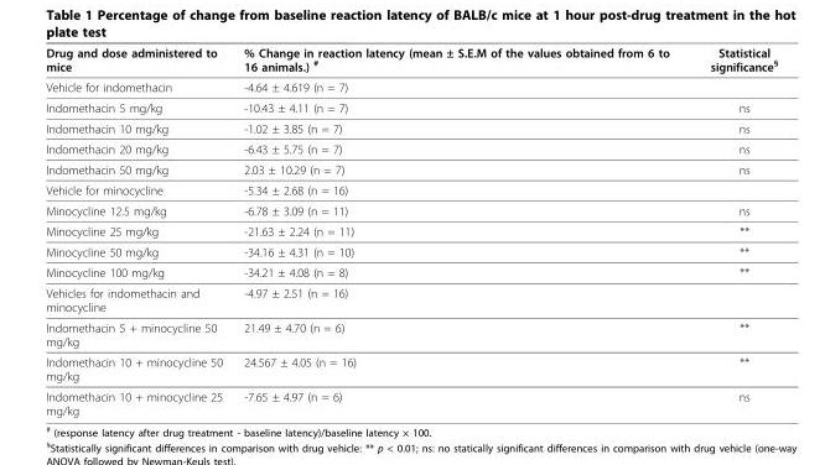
<table><thead><tr><td>Drug and dose administered to mice</td><td>% Change in reaction latency (mean ± S.E.M of the values obtained from 6 to 16 animals.) <sup>#</sup></td><td>Statistical significance<sup>§</sup></td></tr></thead><tbody><tr><td>Vehicle for indomethacin</td><td>-4.64 ± 4.619 (n = 7)</td><td></td></tr><tr><td>Indomethacin 5 mg/kg</td><td>-10.43 ± 4.11 (n = 7)</td><td>ns</td></tr><tr><td>Indomethacin 10 mg/kg</td><td>-1.02 ± 3.85 (n = 7)</td><td>ns</td></tr><tr><td>Indomethacin 20 mg/kg</td><td>-6.43 ± 5.75 (n = 7)</td><td>ns</td></tr><tr><td>Indomethacin 50 mg/kg</td><td>2.03 ± 10.29 (n = 7)</td><td>ns</td></tr><tr><td>Vehicle for minocycline</td><td>-5.34 ± 2.68 (n = 16)</td><td></td></tr><tr><td>Minocycline 12.5 mg/kg</td><td>-6.78 ± 3.09 (n = 11)</td><td>ns</td></tr><tr><td>Minocycline 25 mg/kg</td><td>-21.63 ± 2.24 (n = 11)</td><td>**</td></tr><tr><td>Minocycline 50 mg/kg</td><td>-34.16 ± 4.31 (n = 10)</td><td>**</td></tr><tr><td>Minocycline 100 mg/kg</td><td>-34.21 ± 4.08 (n = 8)</td><td>**</td></tr><tr><td>Vehicles for indomethacin and minocycline</td><td>-4.97 ± 2.51 (n = 16)</td><td></td></tr><tr><td>Indomethacin 5 + minocycline 50 mg/kg</td><td>21.49 ± 4.70 (n = 6)</td><td>**</td></tr><tr><td>Indomethacin 10 + minocycline 50 mg/kg</td><td>24.567 ± 4.05 (n = 16)</td><td>**</td></tr><tr><td>Indomethacin 10 + minocycline 25 mg/kg</td><td>-7.65 ± 4.97 (n = 6)</td><td>ns</td></tr></tbody></table>